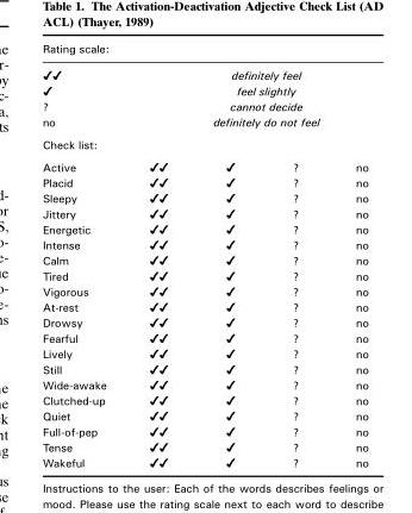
<table><thead><tr><td colspan="5">Rating scale:</td></tr></thead><tbody><tr><td>✔✔</td><td colspan="4">definitely feel</td></tr><tr><td>✔</td><td colspan="4">feel slightly</td></tr><tr><td>?</td><td colspan="4">cannot decide</td></tr><tr><td>no</td><td colspan="4">definitely do not feel</td></tr><tr><td colspan="5">Check list:</td></tr><tr><td>Active</td><td>✔✔</td><td>✔</td><td>?</td><td>no</td></tr><tr><td>Placid</td><td>✔✔</td><td>✔</td><td>?</td><td>no</td></tr><tr><td>Sleepy</td><td>✔✔</td><td>✔</td><td>?</td><td>no</td></tr><tr><td>Jittery</td><td>✔✔</td><td>✔</td><td>?</td><td>no</td></tr><tr><td>Energetic</td><td>✔✔</td><td>✔</td><td>?</td><td>no</td></tr><tr><td>Intense</td><td>✔✔</td><td>✔</td><td>?</td><td>no</td></tr><tr><td>Calm</td><td>✔✔</td><td>✔</td><td>?</td><td>no</td></tr><tr><td>Tired</td><td>✔✔</td><td>✔</td><td>?</td><td>no</td></tr><tr><td>Vigorous</td><td>✔✔</td><td>✔</td><td>?</td><td>no</td></tr><tr><td>At-rest</td><td>✔✔</td><td>✔</td><td>?</td><td>no</td></tr><tr><td>Drowsy</td><td>✔✔</td><td>✔</td><td>?</td><td>no</td></tr><tr><td>Fearful</td><td>✔✔</td><td>✔</td><td>?</td><td>no</td></tr><tr><td>Lively</td><td>✔✔</td><td>✔</td><td>?</td><td>no</td></tr><tr><td>Still</td><td>✔✔</td><td>✔</td><td>?</td><td>no</td></tr><tr><td>Wide-awake</td><td>✔✔</td><td>✔</td><td>?</td><td>no</td></tr><tr><td>Clutched-up</td><td>✔✔</td><td>✔</td><td>?</td><td>no</td></tr><tr><td>Quiet</td><td>✔✔</td><td>✔</td><td>?</td><td>no</td></tr><tr><td>Full-of-pep</td><td>✔✔</td><td>✔</td><td>?</td><td>no</td></tr><tr><td>Tense</td><td>✔✔</td><td>✔</td><td>?</td><td>no</td></tr><tr><td>Wakeful</td><td>✔✔</td><td>✔</td><td>?</td><td>no</td></tr></tbody></table>